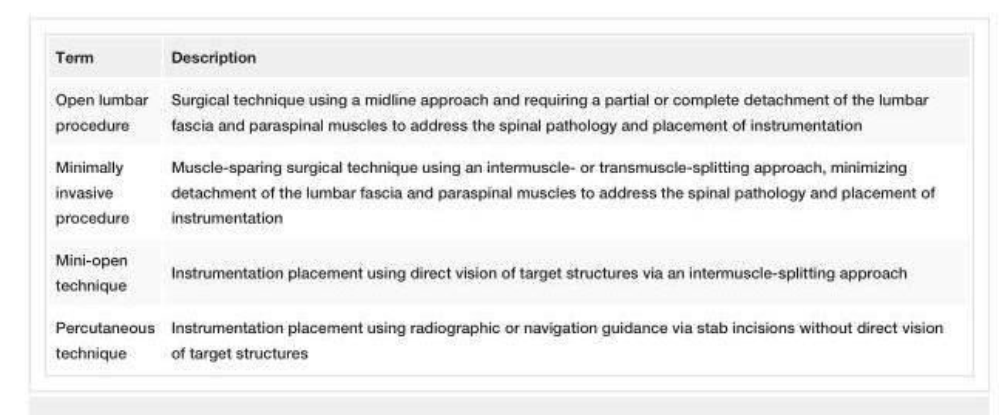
<table><tbody><tr><td>Term</td><td>Description</td></tr><tr><td>Open lumbar procedure</td><td>Surgical technique using a midline approach and requiring a partial or complete detachment of the lumbar fascia and paraspinal muscles to address the spinal pathology and placement of instrumentation</td></tr><tr><td>Minimally invasive procedure</td><td>Muscle-sparing surgical technique using an intermuscle- or transmuscle-splitting approach, minimizing detachment of the lumbar fascia and paraspinal muscles to address the spinal pathology and placement of instrumentation</td></tr><tr><td>Mini-open technique</td><td>Instrumentation placement using direct vision of target structures via an intermuscle-splitting approach</td></tr><tr><td>Percutaneous technique</td><td>Instrumentation placement using radiographic or navigation guidance via stab incisions without direct vision of target structures</td></tr></tbody></table>